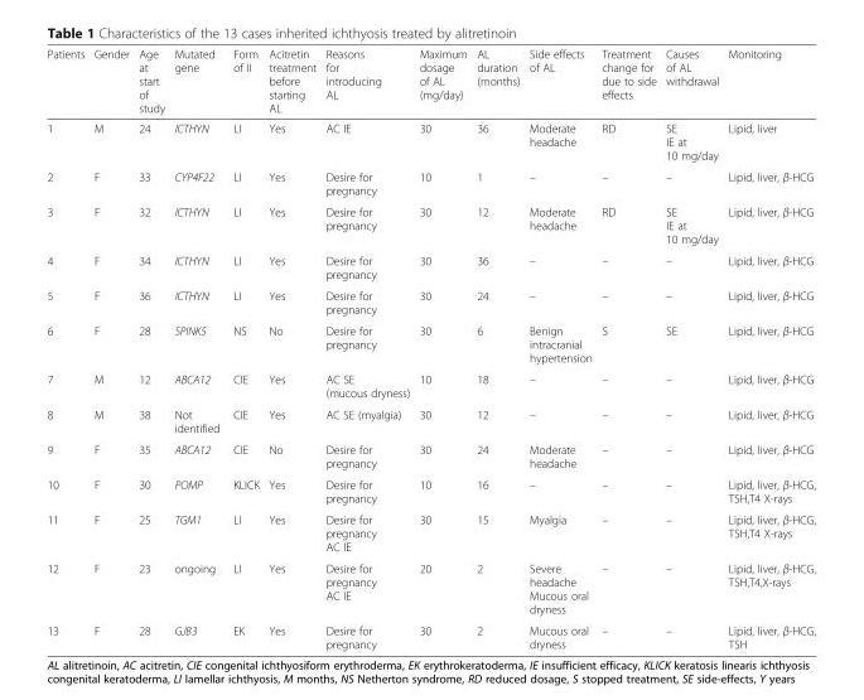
<table><thead><tr><td>Patients</td><td>Gender</td><td>Age at start of study</td><td>Mutated gene</td><td>Form of II</td><td>Acitretin treatment before starting AL</td><td>Reasons for introducing AL</td><td>Maximum dosage of AL (mg/day)</td><td>AL duration (months)</td><td>Side effects of AL</td><td>Treatment change for due to side effects</td><td>Causes of AL withdrawal</td><td>Monitoring</td></tr></thead><tbody><tr><td>1</td><td>M</td><td>24</td><td>ICTHYN</td><td>LI</td><td>Yes</td><td>AC IE</td><td>30</td><td>36</td><td>Moderate headache</td><td>RD</td><td>SE IE at 10 mg/day</td><td>Lipid, liver</td></tr><tr><td>2</td><td>F</td><td>33</td><td>CYP4F22</td><td>LI</td><td>Yes</td><td>Desire for pregnancy</td><td>10</td><td>1</td><td>–</td><td>–</td><td>–</td><td>Lipid, liver, β-HCG</td></tr><tr><td>3</td><td>F</td><td>32</td><td>ICTHYN</td><td>LI</td><td>Yes</td><td>Desire for pregnancy</td><td>30</td><td>12</td><td>Moderate headache</td><td>RD</td><td>SE IE at 10 mg/day</td><td>Lipid, liver, β-HCG</td></tr><tr><td>4</td><td>F</td><td>34</td><td>ICTHYN</td><td>LI</td><td>Yes</td><td>Desire for pregnancy</td><td>30</td><td>36</td><td>–</td><td>–</td><td>–</td><td>Lipid, liver, β-HCG</td></tr><tr><td>5</td><td>F</td><td>36</td><td>ICTHYN</td><td>LI</td><td>Yes</td><td>Desire for pregnancy</td><td>30</td><td>24</td><td>–</td><td>–</td><td>–</td><td>Lipid, liver, β-HCG</td></tr><tr><td>6</td><td>F</td><td>28</td><td>SPINK5</td><td>NS</td><td>No</td><td>Desire for pregnancy</td><td>30</td><td>6</td><td>Benign intracranial hypertension</td><td>S</td><td>SE</td><td>Lipid, liver, β-HCG</td></tr><tr><td>7</td><td>M</td><td>12</td><td>ABCA12</td><td>CIE</td><td>Yes</td><td>AC SE (mucous dryness)</td><td>10</td><td>18</td><td>–</td><td>–</td><td>–</td><td>Lipid, liver, β-HCG</td></tr><tr><td>8</td><td>M</td><td>38</td><td>Not identified</td><td>CIE</td><td>Yes</td><td>AC SE (myalgia)</td><td>30</td><td>12</td><td>–</td><td>–</td><td>–</td><td>Lipid, liver, β-HCG</td></tr><tr><td>9</td><td>F</td><td>35</td><td>ABCA12</td><td>CIE</td><td>No</td><td>Desire for pregnancy</td><td>30</td><td>24</td><td>Moderate headache</td><td>–</td><td>–</td><td>Lipid, liver, β-HCG</td></tr><tr><td>10</td><td>F</td><td>30</td><td>POMP</td><td>KLICK</td><td>Yes</td><td>Desire for pregnancy</td><td>10</td><td>16</td><td>–</td><td>–</td><td>–</td><td>Lipid, liver, β-HCG, TSH,T4 X-rays</td></tr><tr><td>11</td><td>F</td><td>25</td><td>TGM1</td><td>LI</td><td>Yes</td><td>Desire for pregnancy AC IE</td><td>30</td><td>15</td><td>Myalgia</td><td>–</td><td>–</td><td>Lipid, liver, β-HCG, TSH,T4 X-rays</td></tr><tr><td>12</td><td>F</td><td>23</td><td>ongoing</td><td>LI</td><td>Yes</td><td>Desire for pregnancy AC IE</td><td>20</td><td>2</td><td>Severe headache Mucous oral dryness</td><td>–</td><td>–</td><td>Lipid, liver, β-HCG, TSH,T4,X-rays</td></tr><tr><td>13</td><td>F</td><td>28</td><td>GJB3</td><td>EK</td><td>Yes</td><td>Desire for pregnancy</td><td>30</td><td>2</td><td>Mucous oral dryness</td><td>–</td><td>–</td><td>Lipid, liver, β-HCG, TSH</td></tr></tbody></table>